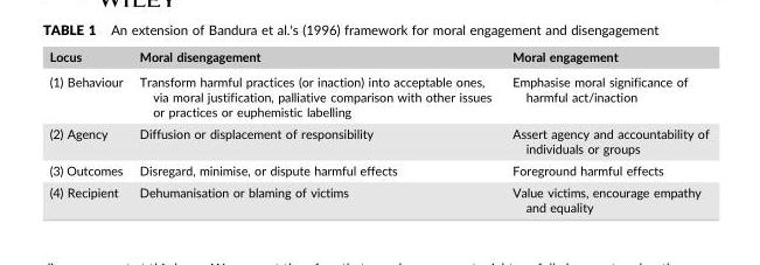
<table><thead><tr><td>Locus</td><td>Moral disengagement</td><td>Moral engagement</td></tr></thead><tbody><tr><td>(1) Behaviour</td><td>Transform harmful practices (or inaction) into acceptable ones, via moral justification, palliative comparison with other issues or practices or euphemistic labelling</td><td>Emphasise moral significance of harmful act/inaction</td></tr><tr><td>(2) Agency</td><td>Diffusion or displacement of responsibility</td><td>Assert agency and accountability of individuals or groups</td></tr><tr><td>(3) Outcomes</td><td>Disregard, minimise, or dispute harmful effects</td><td>Foreground harmful effects</td></tr><tr><td>(4) Recipient</td><td>Dehumanisation or blaming of victims</td><td>Value victims, encourage empathy and equality</td></tr></tbody></table>